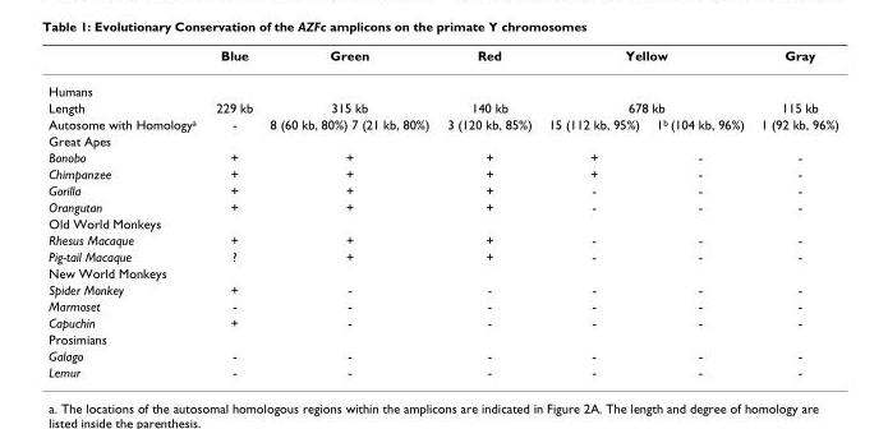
<table><thead><tr><td></td><td>Blue</td><td>Green</td><td>Red</td><td colspan="2">Yellow</td><td>Gray</td></tr><tr><td colspan="7">Humans</td></tr><tr><td rowspan="2">Length Autosome with Homology<sup>a</sup></td><td rowspan="2">229 kb -</td><td rowspan="2">315 kb 8 (60 kb, 80%) 7 (21 kb, 80%)</td><td rowspan="2">140 kb 3 (120 kb, 85%)</td><td colspan="2">678 kb</td><td rowspan="2">115 kb 1 (92 kb, 96%)</td></tr><tr><td>15 (112 kb, 95%)</td><td>1<sup>b</sup> (104 kb, 96%)</td></tr></thead><tbody><tr><td colspan="7">Great Apes</td></tr><tr><td>Bonobo</td><td>+</td><td>+</td><td>+</td><td>+</td><td>-</td><td>-</td></tr><tr><td>Chimpanzee</td><td>+</td><td>+</td><td>+</td><td>+</td><td>-</td><td>-</td></tr><tr><td>Gorilla</td><td>+</td><td>+</td><td>+</td><td>-</td><td>-</td><td>-</td></tr><tr><td>Orangutan</td><td>+</td><td>+</td><td>+</td><td>-</td><td>-</td><td>-</td></tr><tr><td colspan="7">Old World Monkeys</td></tr><tr><td>Rhesus Macaque</td><td>+</td><td>+</td><td>+</td><td>-</td><td>-</td><td>-</td></tr><tr><td>Pig-tail Macaque</td><td>?</td><td>+</td><td>+</td><td>-</td><td>-</td><td>-</td></tr><tr><td colspan="7">New World Monkeys</td></tr><tr><td>Spider Monkey</td><td>+</td><td>-</td><td>-</td><td>-</td><td>-</td><td>-</td></tr><tr><td>Marmoset</td><td>-</td><td>-</td><td>-</td><td>-</td><td>-</td><td>-</td></tr><tr><td>Capuchin</td><td>+</td><td>-</td><td>-</td><td>-</td><td>-</td><td>-</td></tr><tr><td colspan="7">Prosimians</td></tr><tr><td>Galago</td><td>-</td><td>-</td><td>-</td><td>-</td><td>-</td><td>-</td></tr><tr><td>Lemur</td><td>-</td><td>-</td><td>-</td><td>-</td><td>-</td><td>-</td></tr></tbody></table>